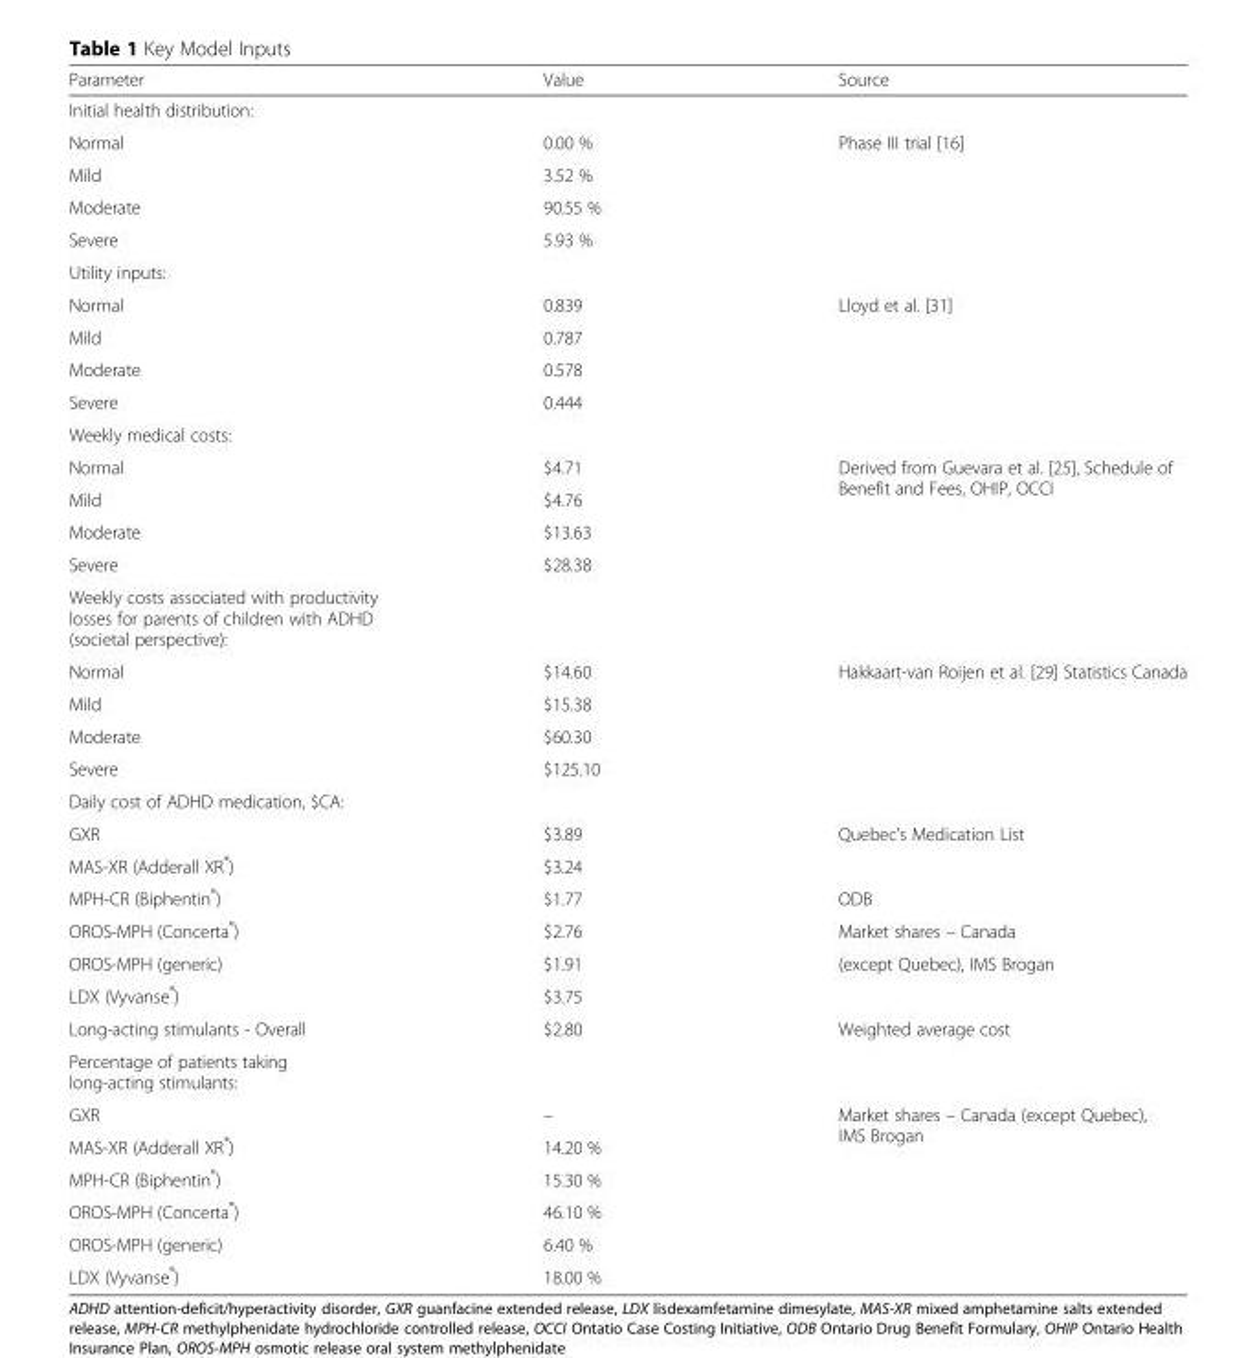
<table><thead><tr><td>Parameter</td><td>Value</td><td>Source</td></tr></thead><tbody><tr><td colspan="3">Initial health distribution:</td></tr><tr><td>Normal</td><td>0.00 %</td><td rowspan="4">Phase III trial [16]</td></tr><tr><td>Mild</td><td>3.52 %</td></tr><tr><td>Moderate</td><td>90.55 %</td></tr><tr><td>Severe</td><td>5.93 %</td></tr><tr><td colspan="3">Utility inputs:</td></tr><tr><td>Normal</td><td>0.839</td><td rowspan="4">Lloyd et al. [31]</td></tr><tr><td>Mild</td><td>0.787</td></tr><tr><td>Moderate</td><td>0.578</td></tr><tr><td>Severe</td><td>0.444</td></tr><tr><td colspan="3">Weekly medical costs:</td></tr><tr><td>Normal</td><td>$4.71</td><td rowspan="4">Derived from Guevara et al. [25], Schedule of Benefit and Fees, OHIP, OCCI</td></tr><tr><td>Mild</td><td>$4.76</td></tr><tr><td>Moderate</td><td>$13.63</td></tr><tr><td>Severe</td><td>$28.38</td></tr><tr><td colspan="3">Weekly costs associated with productivity losses for parents of children with ADHD (societal perspective):</td></tr><tr><td>Normal</td><td>$14.60</td><td rowspan="4">Hakkaart-van Roijen et al. [29] Statistics Canada</td></tr><tr><td>Mild</td><td>$15.38</td></tr><tr><td>Moderate</td><td>$60.30</td></tr><tr><td>Severe</td><td>$125.10</td></tr><tr><td colspan="3">Daily cost of ADHD medication, $CA:</td></tr><tr><td>GXR</td><td>$3.89</td><td>Quebec’s Medication List</td></tr><tr><td>MAS-XR (Adderall XR<sup>®</sup>)</td><td>$3.24</td><td></td></tr><tr><td>MPH-CR (Biphentin<sup>®</sup>)</td><td>$1.77</td><td>ODB</td></tr><tr><td>OROS-MPH (Concerta<sup>®</sup>)</td><td>$2.76</td><td>Market shares – Canada</td></tr><tr><td>OROS-MPH (generic)</td><td>$1.91</td><td>(except Quebec), IMS Brogan</td></tr><tr><td>LDX (Vyvanse<sup>®</sup>)</td><td>$3.75</td><td></td></tr><tr><td>Long-acting stimulants - Overall</td><td>$2.80</td><td>Weighted average cost</td></tr><tr><td colspan="3">Percentage of patients taking long-acting stimulants:</td></tr><tr><td>GXR</td><td>–</td><td rowspan="6">Market shares – Canada (except Quebec), IMS Brogan</td></tr><tr><td>MAS-XR (Adderall XR<sup>®</sup>)</td><td>14.20 %</td></tr><tr><td>MPH-CR (Biphentin<sup>®</sup>)</td><td>15.30 %</td></tr><tr><td>OROS-MPH (Concerta<sup>®</sup>)</td><td>46.10 %</td></tr><tr><td>OROS-MPH (generic)</td><td>6.40 %</td></tr><tr><td>LDX (Vyvanse<sup>®</sup>)</td><td>18.00 %</td></tr></tbody></table>